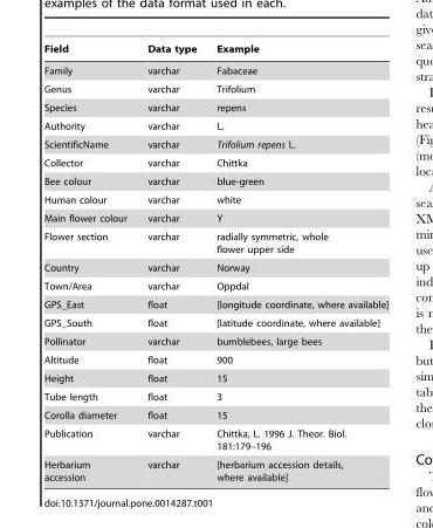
<table><thead><tr><td>Field</td><td>Data type</td><td>Example</td></tr></thead><tbody><tr><td>Family</td><td>varchar</td><td>Fabaceae</td></tr><tr><td>Genus</td><td>varchar</td><td>Trifolium</td></tr><tr><td>Species</td><td>varchar</td><td>repens</td></tr><tr><td>Authority</td><td>varchar</td><td>L.</td></tr><tr><td>ScientificName</td><td>varchar</td><td>Trifolium repens L.</td></tr><tr><td>Collector</td><td>varchar</td><td>Chittka</td></tr><tr><td>Bee colour</td><td>varchar</td><td>blue-green</td></tr><tr><td>Human colour</td><td>varchar</td><td>white</td></tr><tr><td>Main flower colour</td><td>varchar</td><td>Y</td></tr><tr><td>Flower section</td><td>varchar</td><td>radially symmetric, whole flower upper side</td></tr><tr><td>Country</td><td>varchar</td><td>Norway</td></tr><tr><td>Town/Area</td><td>varchar</td><td>Oppdal</td></tr><tr><td>GPS_East</td><td>float</td><td>[longitude coordinate, where available]</td></tr><tr><td>GPS_South</td><td>float</td><td>[latitude coordinate, where available]</td></tr><tr><td>Pollinator</td><td>varchar</td><td>bumblebees, large bees</td></tr><tr><td>Altitude</td><td>float</td><td>900</td></tr><tr><td>Height</td><td>float</td><td>15</td></tr><tr><td>Tube length</td><td>float</td><td>3</td></tr><tr><td>Corolla diameter</td><td>float</td><td>15</td></tr><tr><td>Publication</td><td>varchar</td><td>Chittka, L. 1996 J. Theor. Biol. 181:179–196</td></tr><tr><td>Herbarium accession</td><td>varchar</td><td>[herbarium accession details, where available]</td></tr></tbody></table>